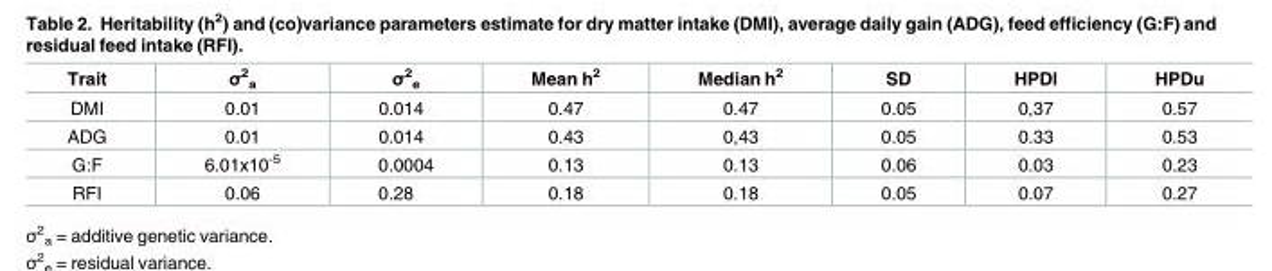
<table><thead><tr><td>Trait</td><td>σ<sup>2</sup> <sub>a</sub></td><td>σ<sup>2</sup> <sub>e</sub></td><td>Mean h<sup>2</sup></td><td>Median h<sup>2</sup></td><td>SD</td><td>HPDl</td><td>HPDu</td></tr></thead><tbody><tr><td>DMI</td><td>0.01</td><td>0.014</td><td>0.47</td><td>0.47</td><td>0.05</td><td>0,37</td><td>0.57</td></tr><tr><td>ADG</td><td>0.01</td><td>0.014</td><td>0.43</td><td>0,43</td><td>0.05</td><td>0.33</td><td>0.53</td></tr><tr><td>G:F</td><td>6.01x10<sup>-5</sup></td><td>0.0004</td><td>0.13</td><td>0.13</td><td>0.06</td><td>0.03</td><td>0.23</td></tr><tr><td>RFI</td><td>0.06</td><td>0.28</td><td>0.18</td><td>0.18</td><td>0.05</td><td>0.07</td><td>0.27</td></tr></tbody></table>